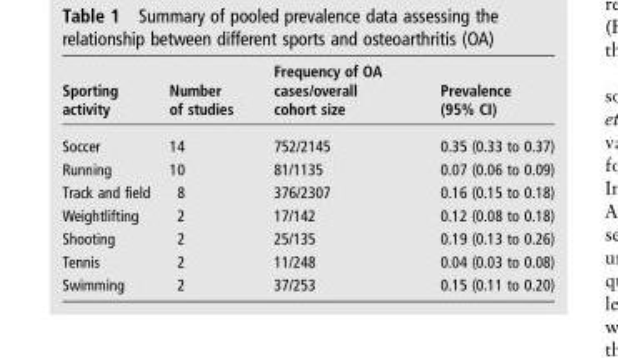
<table><thead><tr><td>Sporting activity</td><td>Number of studies</td><td>Frequency of OA cases/overall cohort size</td><td>Prevalence (95% CI)</td></tr></thead><tbody><tr><td>Soccer</td><td>14</td><td>752/2145</td><td>0.35 (0.33 to 0.37)</td></tr><tr><td>Running</td><td>10</td><td>81/1135</td><td>0.07 (0.06 to 0.09)</td></tr><tr><td>Track and field</td><td>8</td><td>376/2307</td><td>0.16 (0.15 to 0.18)</td></tr><tr><td>Weightlifting</td><td>2</td><td>17/142</td><td>0.12 (0.08 to 0.18)</td></tr><tr><td>Shooting</td><td>2</td><td>25/135</td><td>0.19 (0.13 to 0.26)</td></tr><tr><td>Tennis</td><td>2</td><td>11/248</td><td>0.04 (0.03 to 0.08)</td></tr><tr><td>Swimming</td><td>2</td><td>37/253</td><td>0.15 (0.11 to 0.20)</td></tr></tbody></table>